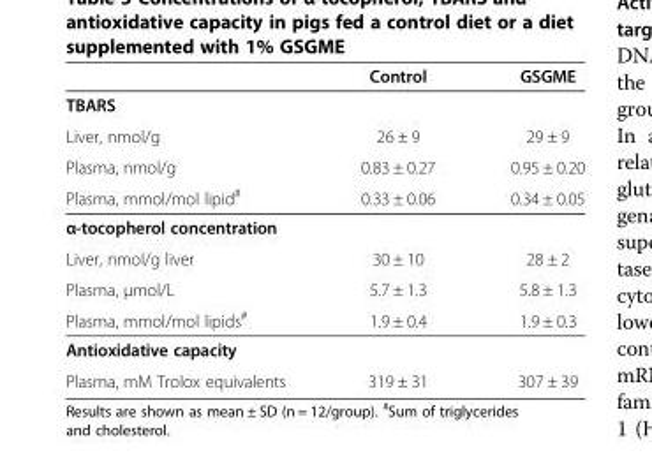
<table><thead><tr><td></td><td>Control</td><td>GSGME</td></tr></thead><tbody><tr><td colspan="3">TBARS</td></tr><tr><td>Liver, nmol/g</td><td>26 ± 9</td><td>29 ± 9</td></tr><tr><td>Plasma, nmol/g</td><td>0.83 ± 0.27</td><td>0.95 ± 0.20</td></tr><tr><td>Plasma, mmol/mol lipid<sup>#</sup></td><td>0.33 ± 0.06</td><td>0.34 ± 0.05</td></tr><tr><td colspan="3">α-tocopherol concentration</td></tr><tr><td>Liver, nmol/g liver</td><td>30 ± 10</td><td>28 ± 2</td></tr><tr><td>Plasma, μmol/L</td><td>5.7 ± 1.3</td><td>5.8 ± 1.3</td></tr><tr><td>Plasma, mmol/mol lipids<sup>#</sup></td><td>1.9 ± 0.4</td><td>1.9 ± 0.3</td></tr><tr><td colspan="3">Antioxidative capacity</td></tr><tr><td>Plasma, mM Trolox equivalents</td><td>319 ± 31</td><td>307 ± 39</td></tr></tbody></table>